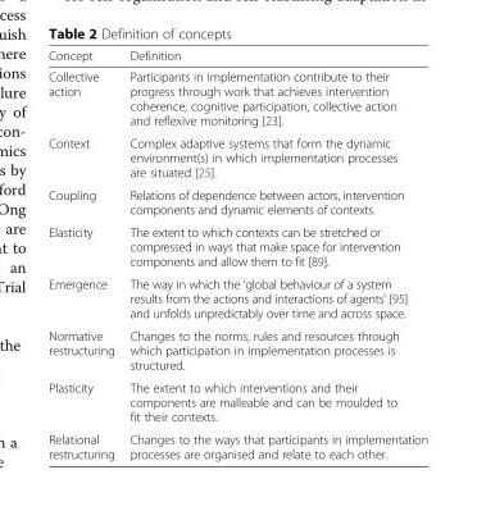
<table><thead><tr><td>Concept</td><td>Definition</td></tr></thead><tbody><tr><td>Collective action</td><td>Participants in implementation contribute to their progress through work that achieves intervention coherence, cognitive participation, collective action and reflexive monitoring [23].</td></tr><tr><td>Context</td><td>Complex adaptive systems that form the dynamic environment(s) in which implementation processes are situated [25].</td></tr><tr><td>Coupling</td><td>Relations of dependence between actors, intervention components and dynamic elements of contexts.</td></tr><tr><td>Elasticity</td><td>The extent to which contexts can be stretched or compressed in ways that make space for intervention components and allow them to fit [89].</td></tr><tr><td>Emergence</td><td>The way in which the ‘global behaviour of a system results from the actions and interactions of agents’ [95] and unfolds unpredictably over time and across space.</td></tr><tr><td>Normative restructuring</td><td>Changes to the norms, rules and resources through which participation in implementation processes is structured.</td></tr><tr><td>Plasticity</td><td>The extent to which interventions and their components are malleable and can be moulded to fit their contexts.</td></tr><tr><td>Relational restructuring</td><td>Changes to the ways that participants in implementation processes are organised and relate to each other.</td></tr></tbody></table>